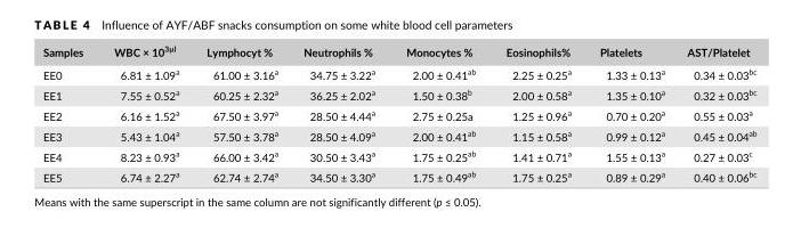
<table><thead><tr><td>Samples</td><td>WBC × 10<sup>3µl</sup></td><td>Lymphocyt %</td><td>Neutrophils %</td><td>Monocytes %</td><td>Eosinophils%</td><td>Platelets</td><td>AST/Platelet</td></tr></thead><tbody><tr><td>EE0</td><td>6.81 ± 1.09<sup>a</sup></td><td>61.00 ± 3.16<sup>a</sup></td><td>34.75 ± 3.22<sup>a</sup></td><td>2.00 ± 0.41<sup>ab</sup></td><td>2.25 ± 0.25<sup>a</sup></td><td>1.33 ± 0.13<sup>a</sup></td><td>0.34 ± 0.03<sup>bc</sup></td></tr><tr><td>EE1</td><td>7.55 ± 0.52<sup>a</sup></td><td>60.25 ± 2.32<sup>a</sup></td><td>36.25 ± 2.02<sup>a</sup></td><td>1.50 ± 0.38<sup>b</sup></td><td>2.00 ± 0.58<sup>a</sup></td><td>1.35 ± 0.10<sup>a</sup></td><td>0.32 ± 0.03<sup>bc</sup></td></tr><tr><td>EE2</td><td>6.16 ± 1.52<sup>a</sup></td><td>67.50 ± 3.97<sup>a</sup></td><td>28.50 ± 4.44<sup>a</sup></td><td>2.75 ± 0.25a</td><td>1.25 ± 0.96<sup>a</sup></td><td>0.70 ± 0.20<sup>a</sup></td><td>0.55 ± 0.03<sup>a</sup></td></tr><tr><td>EE3</td><td>5.43 ± 1.04<sup>a</sup></td><td>57.50 ± 3.78<sup>a</sup></td><td>28.50 ± 4.09<sup>a</sup></td><td>2.00 ± 0.41<sup>ab</sup></td><td>1.15 ± 0.58<sup>a</sup></td><td>0.99 ± 0.12<sup>a</sup></td><td>0.45 ± 0.04<sup>ab</sup></td></tr><tr><td>EE4</td><td>8.23 ± 0.93<sup>a</sup></td><td>66.00 ± 3.42<sup>a</sup></td><td>30.50 ± 3.43<sup>a</sup></td><td>1.75 ± 0.25<sup>ab</sup></td><td>1.41 ± 0.71<sup>a</sup></td><td>1.55 ± 0.13<sup>a</sup></td><td>0.27 ± 0.03<sup>c</sup></td></tr><tr><td>EE5</td><td>6.74 ± 2.27<sup>a</sup></td><td>62.74 ± 2.74<sup>a</sup></td><td>34.50 ± 3.30<sup>a</sup></td><td>1.75 ± 0.49<sup>ab</sup></td><td>1.75 ± 0.25<sup>a</sup></td><td>0.89 ± 0.29<sup>a</sup></td><td>0.40 ± 0.06<sup>bc</sup></td></tr></tbody></table>